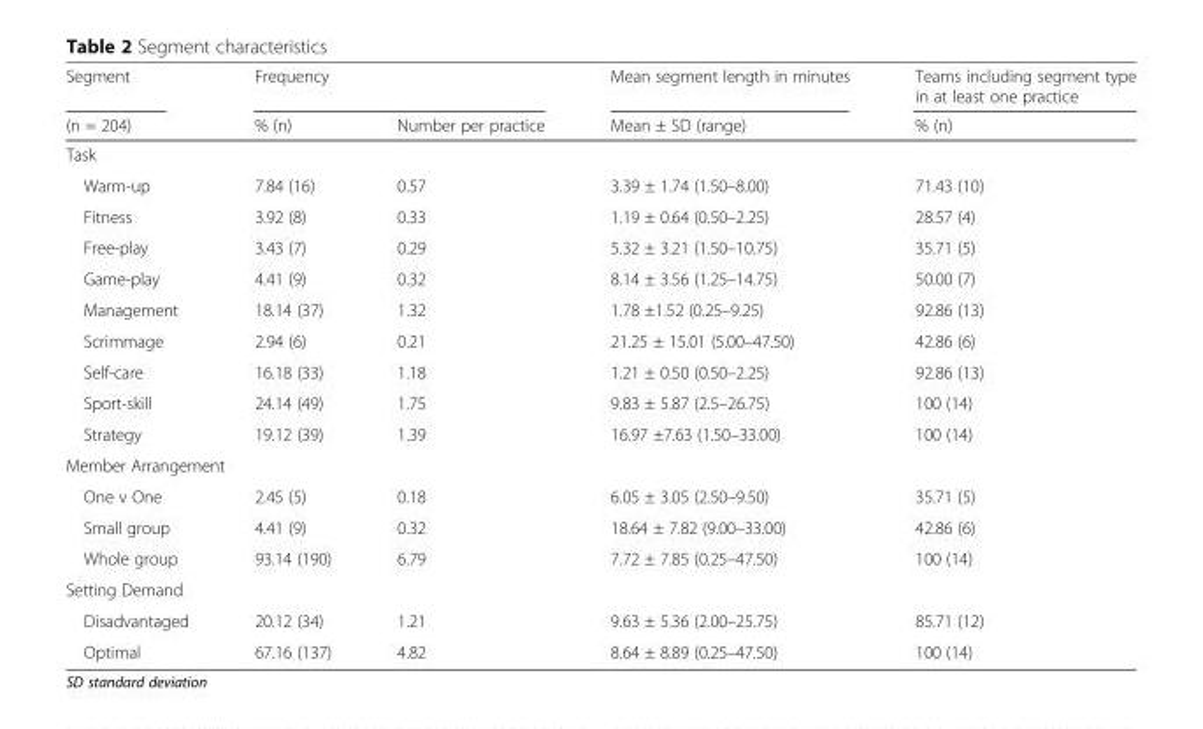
<table><thead><tr><td rowspan="2">Segment (n = 204)</td><td colspan="2">Frequency</td><td rowspan="2">Mean segment length in minutes Mean ± SD (range)</td><td rowspan="2">Teams including segment type in at least one practice % (n)</td></tr><tr><td>% (n)</td><td>Number per practice</td></tr></thead><tbody><tr><td colspan="5">Task</td></tr><tr><td>Warm-up</td><td>7.84 (16)</td><td>0.57</td><td>3.39 ± 1.74 (1.50–8.00)</td><td>71.43 (10)</td></tr><tr><td>Fitness</td><td>3.92 (8)</td><td>0.33</td><td>1.19 ± 0.64 (0.50–2.25)</td><td>28.57 (4)</td></tr><tr><td>Free-play</td><td>3.43 (7)</td><td>0.29</td><td>5.32 ± 3.21 (1.50–10.75)</td><td>35.71 (5)</td></tr><tr><td>Game-play</td><td>4.41 (9)</td><td>0.32</td><td>8.14 ± 3.56 (1.25–14.75)</td><td>50.00 (7)</td></tr><tr><td>Management</td><td>18.14 (37)</td><td>1.32</td><td>1.78 ±1.52 (0.25–9.25)</td><td>92.86 (13)</td></tr><tr><td>Scrimmage</td><td>2.94 (6)</td><td>0.21</td><td>21.25 ± 15.01 (5.00–47.50)</td><td>42.86 (6)</td></tr><tr><td>Self-care</td><td>16.18 (33)</td><td>1.18</td><td>1.21 ± 0.50 (0.50–2.25)</td><td>92.86 (13)</td></tr><tr><td>Sport-skill</td><td>24.14 (49)</td><td>1.75</td><td>9.83 ± 5.87 (2.5–26.75)</td><td>100 (14)</td></tr><tr><td>Strategy</td><td>19.12 (39)</td><td>1.39</td><td>16.97 ±7.63 (1.50–33.00)</td><td>100 (14)</td></tr><tr><td colspan="5">Member Arrangement</td></tr><tr><td>One v One</td><td>2.45 (5)</td><td>0.18</td><td>6.05 ± 3.05 (2.50–9.50)</td><td>35.71 (5)</td></tr><tr><td>Small group</td><td>4.41 (9)</td><td>0.32</td><td>18.64 ± 7.82 (9.00–33.00)</td><td>42.86 (6)</td></tr><tr><td>Whole group</td><td>93.14 (190)</td><td>6.79</td><td>7.72 ± 7.85 (0.25–47.50)</td><td>100 (14)</td></tr><tr><td colspan="5">Setting Demand</td></tr><tr><td>Disadvantaged</td><td>20.12 (34)</td><td>1.21</td><td>9.63 ± 5.36 (2.00–25.75)</td><td>85.71 (12)</td></tr><tr><td>Optimal</td><td>67.16 (137)</td><td>4.82</td><td>8.64 ± 8.89 (0.25–47.50)</td><td>100 (14)</td></tr></tbody></table>